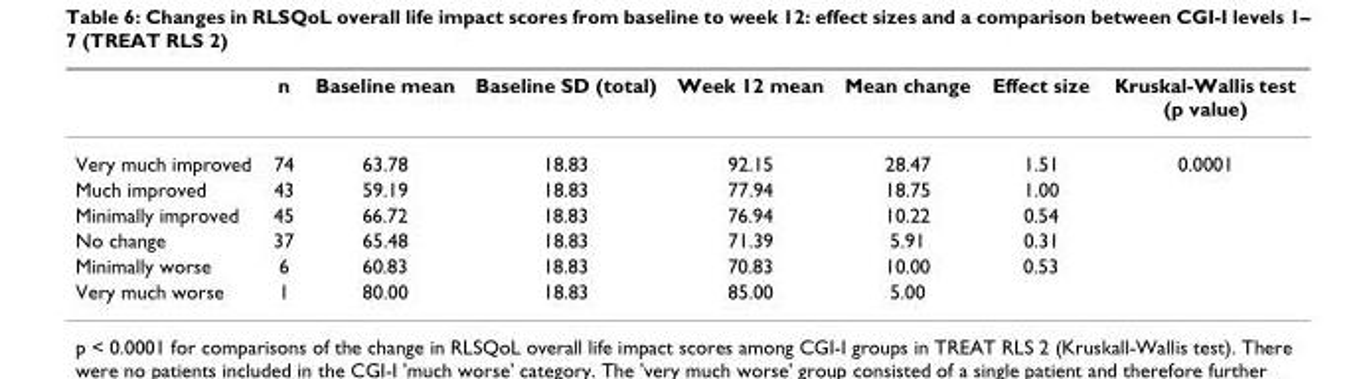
<table><thead><tr><td></td><td>n</td><td>Baseline mean</td><td>Baseline SD (total)</td><td>Week 12 mean</td><td>Mean change</td><td>Effect size</td><td>Kruskal-Wallis test (p value)</td></tr></thead><tbody><tr><td>Very much improved</td><td>74</td><td>63.78</td><td>18.83</td><td>92.15</td><td>28.47</td><td>1.51</td><td>0.0001</td></tr><tr><td>Much improved</td><td>43</td><td>59.19</td><td>18.83</td><td>77.94</td><td>18.75</td><td>1.00</td><td></td></tr><tr><td>Minimally improved</td><td>45</td><td>66.72</td><td>18.83</td><td>76.94</td><td>10.22</td><td>0.54</td><td></td></tr><tr><td>No change</td><td>37</td><td>65.48</td><td>18.83</td><td>71.39</td><td>5.91</td><td>0.31</td><td></td></tr><tr><td>Minimally worse</td><td>6</td><td>60.83</td><td>18.83</td><td>70.83</td><td>10.00</td><td>0.53</td><td></td></tr><tr><td>Very much worse</td><td>1</td><td>80.00</td><td>18.83</td><td>85.00</td><td>5.00</td><td></td><td></td></tr></tbody></table>